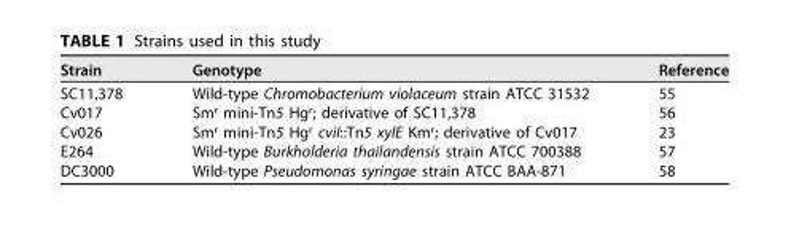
<table><thead><tr><td>Strain</td><td>Genotype</td><td>Reference</td></tr></thead><tbody><tr><td>SC11,378</td><td>Wild-type Chromobacterium violaceum strain ATCC 31532</td><td>55</td></tr><tr><td>Cv017</td><td>Sm<sup>r</sup> mini-Tn5 Hg<sup>r</sup>; derivative of SC11,378</td><td>56</td></tr><tr><td>Cv026</td><td>Sm<sup>r</sup> mini-Tn5 Hg<sup>r</sup> cviI::Tn5 xylE Km<sup>r</sup>; derivative of Cv017</td><td>23</td></tr><tr><td>E264</td><td>Wild-type Burkholderia thailandensis strain ATCC 700388</td><td>57</td></tr><tr><td>DC3000</td><td>Wild-type Pseudomonas syringae strain ATCC BAA-871</td><td>58</td></tr></tbody></table>